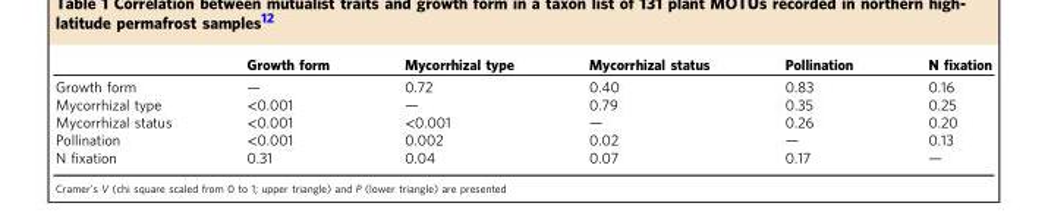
<table><thead><tr><td></td><td>Growth form</td><td>Mycorrhizal type</td><td>Mycorrhizal status</td><td>Pollination</td><td>N fixation</td></tr></thead><tbody><tr><td>Growth form</td><td>—</td><td>0.72</td><td>0.40</td><td>0.83</td><td>0.16</td></tr><tr><td>Mycorrhizal type</td><td>&lt;0.001</td><td>—</td><td>0.79</td><td>0.35</td><td>0.25</td></tr><tr><td>Mycorrhizal status</td><td>&lt;0.001</td><td>&lt;0.001</td><td>—</td><td>0.26</td><td>0.20</td></tr><tr><td>Pollination</td><td>&lt;0.001</td><td>0.002</td><td>0.02</td><td>—</td><td>0.13</td></tr><tr><td>N fixation</td><td>0.31</td><td>0.04</td><td>0.07</td><td>0.17</td><td>—</td></tr></tbody></table>